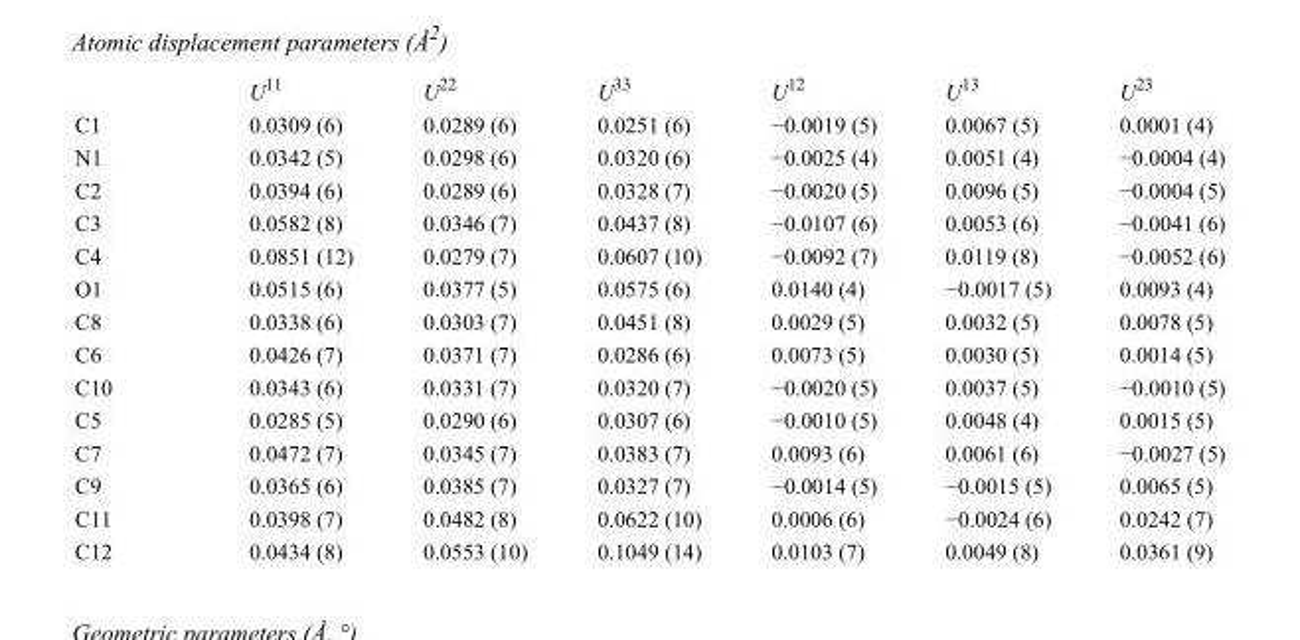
<table><thead><tr><td></td><td>U<sup>11</sup></td><td>U<sup>22</sup></td><td>U<sup>33</sup></td><td>U<sup>12</sup></td><td>U<sup>13</sup></td><td>U<sup>23</sup></td></tr></thead><tbody><tr><td>C1</td><td>0.0309 (6)</td><td>0.0289 (6)</td><td>0.0251 (6)</td><td>−0.0019 (5)</td><td>0.0067 (5)</td><td>0.0001 (4)</td></tr><tr><td>N1</td><td>0.0342 (5)</td><td>0.0298 (6)</td><td>0.0320 (6)</td><td>−0.0025 (4)</td><td>0.0051 (4)</td><td>−0.0004 (4)</td></tr><tr><td>C2</td><td>0.0394 (6)</td><td>0.0289 (6)</td><td>0.0328 (7)</td><td>−0.0020 (5)</td><td>0.0096 (5)</td><td>−0.0004 (5)</td></tr><tr><td>C3</td><td>0.0582 (8)</td><td>0.0346 (7)</td><td>0.0437 (8)</td><td>−0.0107 (6)</td><td>0.0053 (6)</td><td>−0.0041 (6)</td></tr><tr><td>C4</td><td>0.0851 (12)</td><td>0.0279 (7)</td><td>0.0607 (10)</td><td>−0.0092 (7)</td><td>0.0119 (8)</td><td>−0.0052 (6)</td></tr><tr><td>O1</td><td>0.0515 (6)</td><td>0.0377 (5)</td><td>0.0575 (6)</td><td>0.0140 (4)</td><td>−0.0017 (5)</td><td>0.0093 (4)</td></tr><tr><td>C8</td><td>0.0338 (6)</td><td>0.0303 (7)</td><td>0.0451 (8)</td><td>0.0029 (5)</td><td>0.0032 (5)</td><td>0.0078 (5)</td></tr><tr><td>C6</td><td>0.0426 (7)</td><td>0.0371 (7)</td><td>0.0286 (6)</td><td>0.0073 (5)</td><td>0.0030 (5)</td><td>0.0014 (5)</td></tr><tr><td>C10</td><td>0.0343 (6)</td><td>0.0331 (7)</td><td>0.0320 (7)</td><td>−0.0020 (5)</td><td>0.0037 (5)</td><td>−0.0010 (5)</td></tr><tr><td>C5</td><td>0.0285 (5)</td><td>0.0290 (6)</td><td>0.0307 (6)</td><td>−0.0010 (5)</td><td>0.0048 (4)</td><td>0.0015 (5)</td></tr><tr><td>C7</td><td>0.0472 (7)</td><td>0.0345 (7)</td><td>0.0383 (7)</td><td>0.0093 (6)</td><td>0.0061 (6)</td><td>−0.0027 (5)</td></tr><tr><td>C9</td><td>0.0365 (6)</td><td>0.0385 (7)</td><td>0.0327 (7)</td><td>−0.0014 (5)</td><td>−0.0015 (5)</td><td>0.0065 (5)</td></tr><tr><td>C11</td><td>0.0398 (7)</td><td>0.0482 (8)</td><td>0.0622 (10)</td><td>0.0006 (6)</td><td>−0.0024 (6)</td><td>0.0242 (7)</td></tr><tr><td>C12</td><td>0.0434 (8)</td><td>0.0553 (10)</td><td>0.1049 (14)</td><td>0.0103 (7)</td><td>0.0049 (8)</td><td>0.0361 (9)</td></tr></tbody></table>